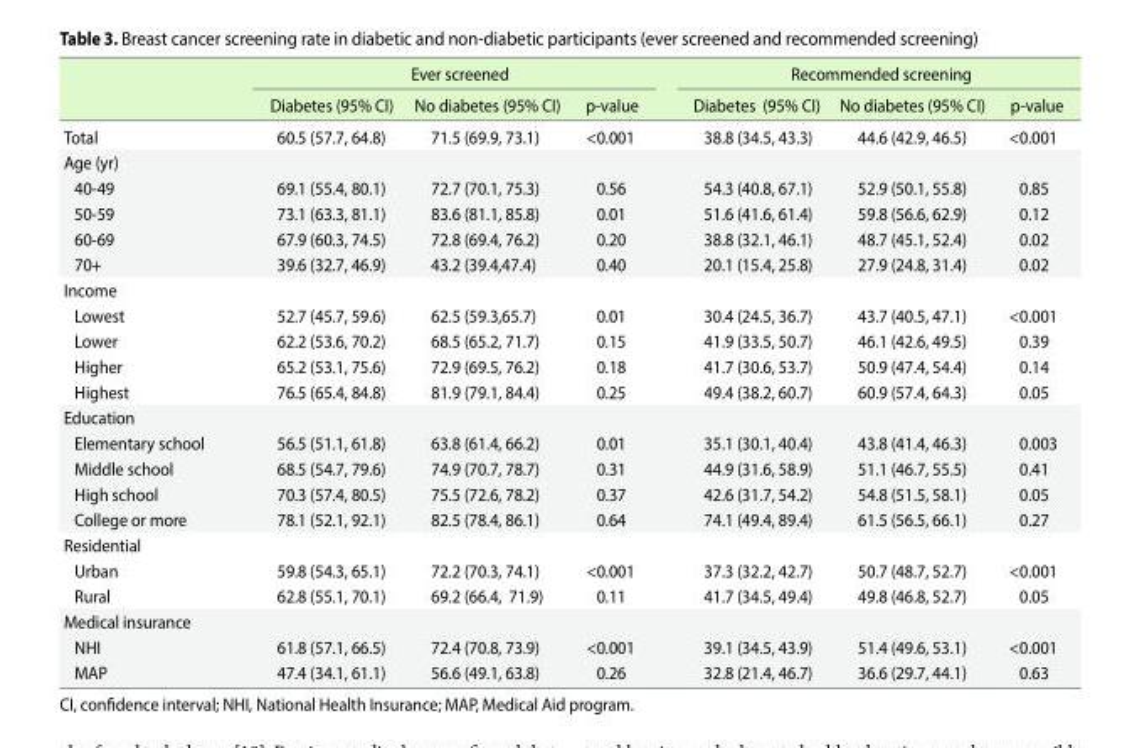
<table><thead><tr><td rowspan="2"></td><td colspan="3">Ever screened</td><td colspan="3">Recommended screening</td></tr><tr><td>Diabetes (95% CI)</td><td>No diabetes (95% CI)</td><td>p-value</td><td>Diabetes (95% CI)</td><td>No diabetes (95% CI)</td><td>p-value</td></tr></thead><tbody><tr><td>Total</td><td>60.5 (57.7, 64.8)</td><td>71.5 (69.9, 73.1)</td><td>&lt;0.001</td><td>38.8 (34.5, 43.3)</td><td>44.6 (42.9, 46.5)</td><td>&lt;0.001</td></tr><tr><td colspan="7">Age (yr)</td></tr><tr><td>40-49</td><td>69.1 (55.4, 80.1)</td><td>72.7 (70.1, 75.3)</td><td>0.56</td><td>54.3 (40.8, 67.1)</td><td>52.9 (50.1, 55.8)</td><td>0.85</td></tr><tr><td>50-59</td><td>73.1 (63.3, 81.1)</td><td>83.6 (81.1, 85.8)</td><td>0.01</td><td>51.6 (41.6, 61.4)</td><td>59.8 (56.6, 62.9)</td><td>0.12</td></tr><tr><td>60-69</td><td>67.9 (60.3, 74.5)</td><td>72.8 (69.4, 76.2)</td><td>0.20</td><td>38.8 (32.1, 46.1)</td><td>48.7 (45.1, 52.4)</td><td>0.02</td></tr><tr><td>70+</td><td>39.6 (32.7, 46.9)</td><td>43.2 (39.4,47.4)</td><td>0.40</td><td>20.1 (15.4, 25.8)</td><td>27.9 (24.8, 31.4)</td><td>0.02</td></tr><tr><td colspan="7">Income</td></tr><tr><td>Lowest</td><td>52.7 (45.7, 59.6)</td><td>62.5 (59.3,65.7)</td><td>0.01</td><td>30.4 (24.5, 36.7)</td><td>43.7 (40.5, 47.1)</td><td>&lt;0.001</td></tr><tr><td>Lower</td><td>62.2 (53.6, 70.2)</td><td>68.5 (65.2, 71.7)</td><td>0.15</td><td>41.9 (33.5, 50.7)</td><td>46.1 (42.6, 49.5)</td><td>0.39</td></tr><tr><td>Higher</td><td>65.2 (53.1, 75.6)</td><td>72.9 (69.5, 76.2)</td><td>0.18</td><td>41.7 (30.6, 53.7)</td><td>50.9 (47.4, 54.4)</td><td>0.14</td></tr><tr><td>Highest</td><td>76.5 (65.4, 84.8)</td><td>81.9 (79.1, 84.4)</td><td>0.25</td><td>49.4 (38.2, 60.7)</td><td>60.9 (57.4, 64.3)</td><td>0.05</td></tr><tr><td colspan="7">Education</td></tr><tr><td>Elementary school</td><td>56.5 (51.1, 61.8)</td><td>63.8 (61.4, 66.2)</td><td>0.01</td><td>35.1 (30.1, 40.4)</td><td>43.8 (41.4, 46.3)</td><td>0.003</td></tr><tr><td>Middle school</td><td>68.5 (54.7, 79.6)</td><td>74.9 (70.7, 78.7)</td><td>0.31</td><td>44.9 (31.6, 58.9)</td><td>51.1 (46.7, 55.5)</td><td>0.41</td></tr><tr><td>High school</td><td>70.3 (57.4, 80.5)</td><td>75.5 (72.6, 78.2)</td><td>0.37</td><td>42.6 (31.7, 54.2)</td><td>54.8 (51.5, 58.1)</td><td>0.05</td></tr><tr><td>College or more</td><td>78.1 (52.1, 92.1)</td><td>82.5 (78.4, 86.1)</td><td>0.64</td><td>74.1 (49.4, 89.4)</td><td>61.5 (56.5, 66.1)</td><td>0.27</td></tr><tr><td colspan="7">Residential</td></tr><tr><td>Urban</td><td>59.8 (54.3, 65.1)</td><td>72.2 (70.3, 74.1)</td><td>&lt;0.001</td><td>37.3 (32.2, 42.7)</td><td>50.7 (48.7, 52.7)</td><td>&lt;0.001</td></tr><tr><td>Rural</td><td>62.8 (55.1, 70.1)</td><td>69.2 (66.4, 71.9)</td><td>0.11</td><td>41.7 (34.5, 49.4)</td><td>49.8 (46.8, 52.7)</td><td>0.05</td></tr><tr><td colspan="7">Medical insurance</td></tr><tr><td>NHI</td><td>61.8 (57.1, 66.5)</td><td>72.4 (70.8, 73.9)</td><td>&lt;0.001</td><td>39.1 (34.5, 43.9)</td><td>51.4 (49.6, 53.1)</td><td>&lt;0.001</td></tr><tr><td>MAP</td><td>47.4 (34.1, 61.1)</td><td>56.6 (49.1, 63.8)</td><td>0.26</td><td>32.8 (21.4, 46.7)</td><td>36.6 (29.7, 44.1)</td><td>0.63</td></tr></tbody></table>